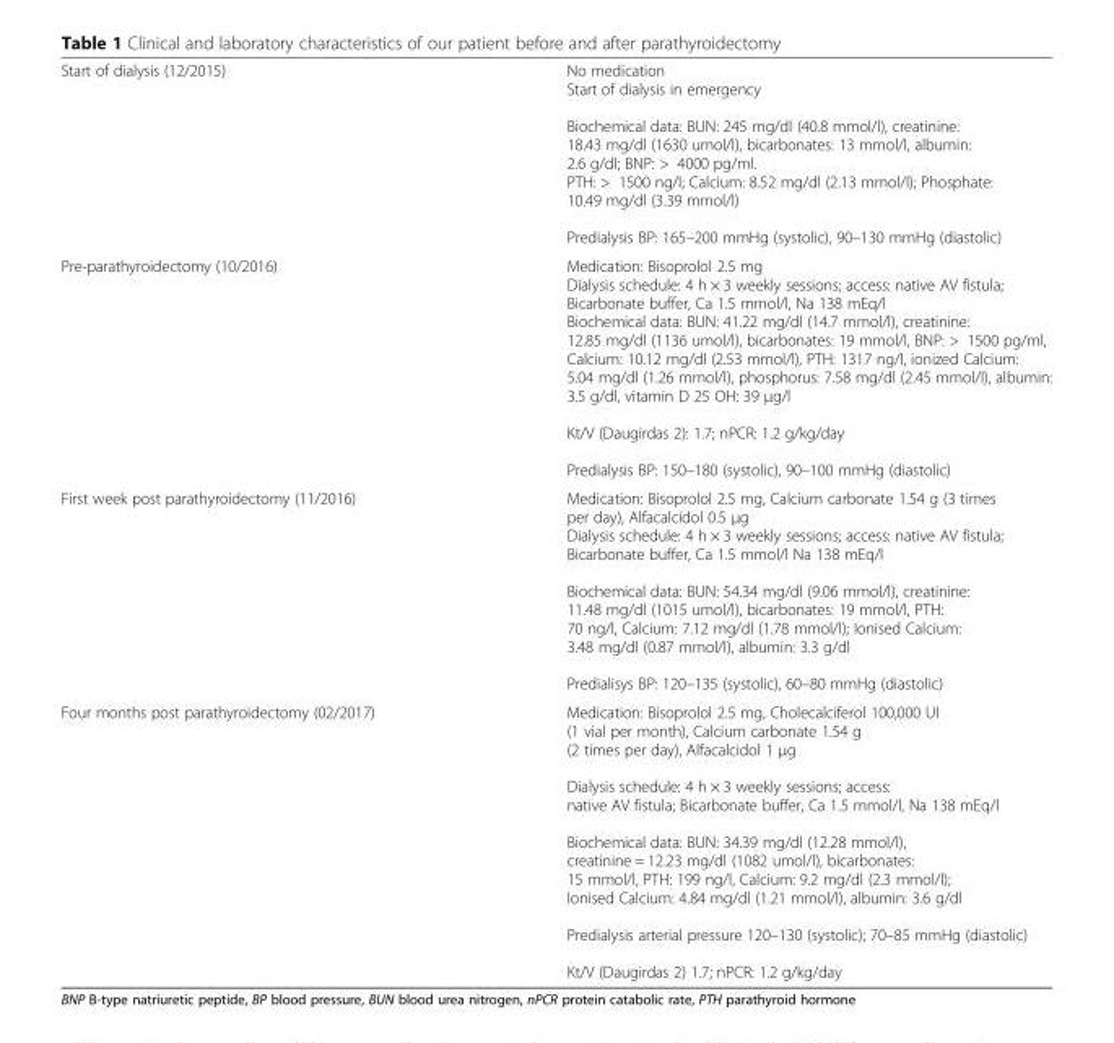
<table><tbody><tr><td>Start of dialysis (12/2015)</td><td>No medication Start of dialysis in emergency Biochemical data: BUN: 245 mg/dl (40.8 mmol/l), creatinine: 18.43 mg/dl (1630 umol/l), bicarbonates: 13 mmol/l, albumin: 2.6 g/dl; BNP: &gt; 4000 pg/ml. PTH: &gt; 1500 ng/l; Calcium: 8.52 mg/dl (2.13 mmol/l); Phosphate: 10.49 mg/dl (3.39 mmol/l) Predialysis BP: 165–200 mmHg (systolic), 90–130 mmHg (diastolic)</td></tr><tr><td>Pre-parathyroidectomy (10/2016)</td><td>Medication: Bisoprolol 2.5 mg Dialysis schedule: 4 h × 3 weekly sessions; access: native AV fistula; Bicarbonate buffer, Ca 1.5 mmol/l, Na 138 mEq/l Biochemical data: BUN: 41.22 mg/dl (14.7 mmol/l), creatinine: 12.85 mg/dl (1136 umol/l), bicarbonates: 19 mmol/l, BNP: &gt; 1500 pg/ml, Calcium: 10.12 mg/dl (2.53 mmol/l), PTH: 1317 ng/l, ionized Calcium: 5.04 mg/dl (1.26 mmol/l), phosphorus: 7.58 mg/dl (2.45 mmol/l), albumin: 3.5 g/dl, vitamin D 25 OH: 39 μg/l Kt/V (Daugirdas 2): 1.7; nPCR: 1.2 g/kg/day Predialysis BP: 150–180 (systolic), 90–100 mmHg (diastolic)</td></tr><tr><td>First week post parathyroidectomy (11/2016)</td><td>Medication: Bisoprolol 2.5 mg, Calcium carbonate 1.54 g (3 times per day), Alfacalcidol 0.5 μg Dialysis schedule: 4 h × 3 weekly sessions; access: native AV fistula; Bicarbonate buffer, Ca 1.5 mmol/l Na 138 mEq/l Biochemical data: BUN: 54.34 mg/dl (9.06 mmol/l), creatinine: 11.48 mg/dl (1015 umol/l), bicarbonates: 19 mmol/l, PTH: 70 ng/l, Calcium: 7.12 mg/dl (1.78 mmol/l); Ionised Calcium: 3.48 mg/dl (0.87 mmol/l), albumin: 3.3 g/dl Predialisys BP: 120–135 (systolic), 60–80 mmHg (diastolic)</td></tr><tr><td>Four months post parathyroidectomy (02/2017)</td><td>Medication: Bisoprolol 2.5 mg, Cholecalciferol 100,000 UI (1 vial per month), Calcium carbonate 1.54 g (2 times per day), Alfacalcidol 1 μg Dialysis schedule: 4 h × 3 weekly sessions; access: native AV fistula; Bicarbonate buffer, Ca 1.5 mmol/l, Na 138 mEq/l Biochemical data: BUN: 34.39 mg/dl (12.28 mmol/l), creatinine = 12.23 mg/dl (1082 umol/l), bicarbonates: 15 mmol/l, PTH: 199 ng/l, Calcium: 9.2 mg/dl (2.3 mmol/l); Ionised Calcium: 4.84 mg/dl (1.21 mmol/l), albumin: 3.6 g/dl Predialysis arterial pressure 120–130 (systolic); 70–85 mmHg (diastolic) Kt/V (Daugirdas 2) 1.7; nPCR: 1.2 g/kg/day</td></tr></tbody></table>